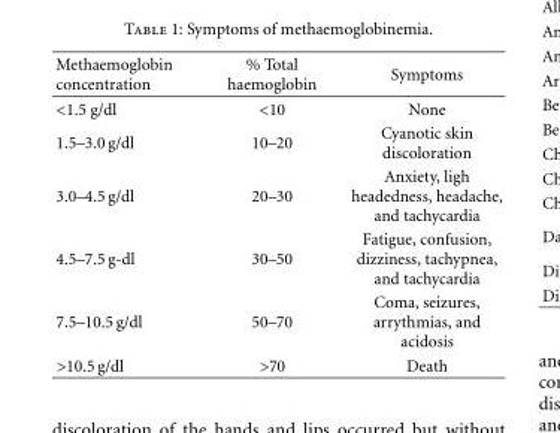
<table><thead><tr><td>Methaemoglobin concentration</td><td>% Total haemoglobin</td><td>Symptoms</td></tr></thead><tbody><tr><td>&lt;1.5 g/dl</td><td>&lt;10</td><td>None</td></tr><tr><td>1.5–3.0 g/dl</td><td>10–20</td><td>Cyanotic skin discoloration</td></tr><tr><td>3.0–4.5 g/dl</td><td>20–30</td><td>Anxiety, ligh headedness, headache, and tachycardia</td></tr><tr><td>4.5–7.5 g-dl</td><td>30–50</td><td>Fatigue, confusion, dizziness, tachypnea, and tachycardia</td></tr><tr><td>7.5–10.5 g/dl</td><td>50–70</td><td>Coma, seizures, arrythmias, and acidosis</td></tr><tr><td>&gt;10.5 g/dl</td><td>&gt;70</td><td>Death</td></tr></tbody></table>